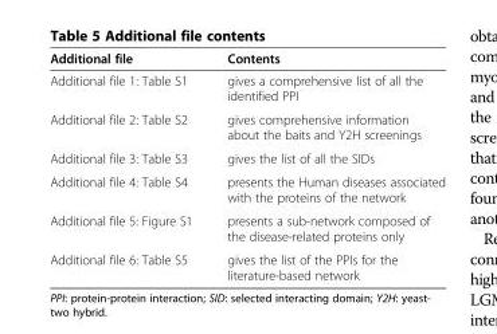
<table><thead><tr><td>Additional file</td><td>Contents</td></tr></thead><tbody><tr><td>Additional file 1: Table S1</td><td>gives a comprehensive list of all the identified PPI</td></tr><tr><td>Additional file 2: Table S2</td><td>gives comprehensive information about the baits and Y2H screenings</td></tr><tr><td>Additional file 3: Table S3</td><td>gives the list of all the SIDs</td></tr><tr><td>Additional file 4: Table S4</td><td>presents the Human diseases associated with the proteins of the network</td></tr><tr><td>Additional file 5: Figure S1</td><td>presents a sub-network composed of the disease-related proteins only</td></tr><tr><td>Additional file 6: Table S5</td><td>gives the list of the PPIs for the literature-based network</td></tr></tbody></table>